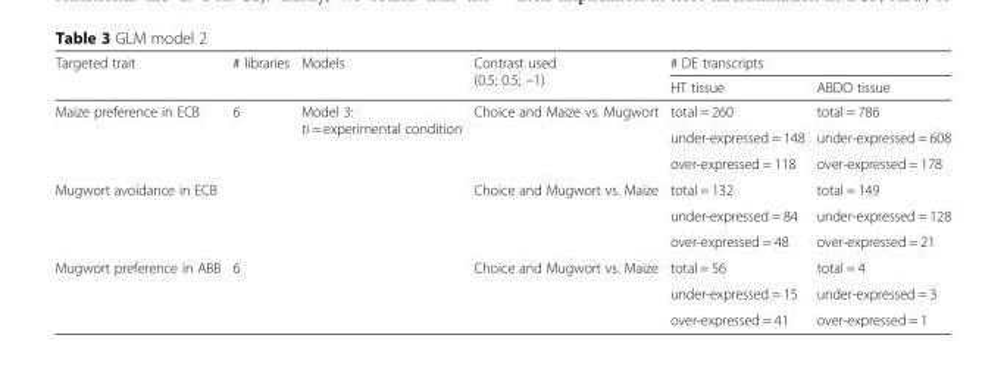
<table><thead><tr><td rowspan="2">Targeted trait</td><td rowspan="2"># libraries</td><td rowspan="2">Models</td><td rowspan="2">Contrast used (0.5; 0.5; −1)</td><td colspan="2"># DE transcripts</td></tr><tr><td>HT tissue</td><td>ABDO tissue</td></tr></thead><tbody><tr><td rowspan="3">Maize preference in ECB</td><td rowspan="6">6</td><td rowspan="9">Model 3: ti = experimental condition</td><td rowspan="3">Choice and Maize vs. Mugwort</td><td>total = 260</td><td>total = 786</td></tr><tr><td>under-expressed = 148</td><td>under-expressed = 608</td></tr><tr><td>over-expressed = 118</td><td>over-expressed = 178</td></tr><tr><td rowspan="3">Mugwort avoidance in ECB</td><td rowspan="3">Choice and Mugwort vs. Maize</td><td>total = 132</td><td>total = 149</td></tr><tr><td>under-expressed = 84</td><td>under-expressed = 128</td></tr><tr><td>over-expressed = 48</td><td>over-expressed = 21</td></tr><tr><td rowspan="3">Mugwort preference in ABB</td><td rowspan="3">6</td><td rowspan="3">Choice and Mugwort vs. Maize</td><td>total = 56</td><td>total = 4</td></tr><tr><td>under-expressed = 15</td><td>under-expressed = 3</td></tr><tr><td>over-expressed = 41</td><td>over-expressed = 1</td></tr></tbody></table>